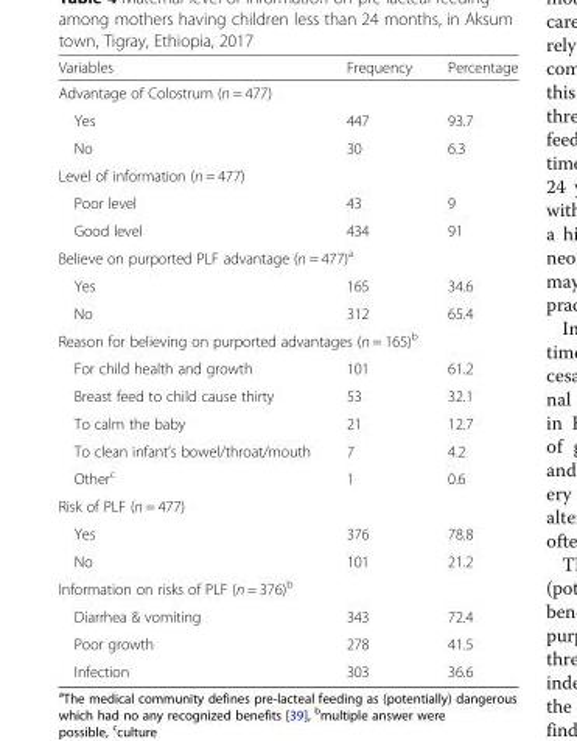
<table><thead><tr><td>Variables</td><td>Frequency</td><td>Percentage</td></tr></thead><tbody><tr><td colspan="3">Advantage of Colostrum (n = 477)</td></tr><tr><td>Yes</td><td>447</td><td>93.7</td></tr><tr><td>No</td><td>30</td><td>6.3</td></tr><tr><td colspan="3">Level of information (n = 477)</td></tr><tr><td>Poor level</td><td>43</td><td>9</td></tr><tr><td>Good level</td><td>434</td><td>91</td></tr><tr><td colspan="3">Believe on purported PLF advantage (n = 477)<sup>a</sup></td></tr><tr><td>Yes</td><td>165</td><td>34.6</td></tr><tr><td>No</td><td>312</td><td>65.4</td></tr><tr><td colspan="3">Reason for believing on purported advantages (n = 165)<sup>b</sup></td></tr><tr><td>For child health and growth</td><td>101</td><td>61.2</td></tr><tr><td>Breast feed to child cause thirty</td><td>53</td><td>32.1</td></tr><tr><td>To calm the baby</td><td>21</td><td>12.7</td></tr><tr><td>To clean infant’s bowel/throat/mouth</td><td>7</td><td>4.2</td></tr><tr><td>Other<sup>c</sup></td><td>1</td><td>0.6</td></tr><tr><td colspan="3">Risk of PLF (n = 477)</td></tr><tr><td>Yes</td><td>376</td><td>78.8</td></tr><tr><td>No</td><td>101</td><td>21.2</td></tr><tr><td colspan="3">Information on risks of PLF (n = 376)<sup>b</sup></td></tr><tr><td>Diarrhea &amp; vomiting</td><td>343</td><td>72.4</td></tr><tr><td>Poor growth</td><td>278</td><td>41.5</td></tr><tr><td>Infection</td><td>303</td><td>36.6</td></tr></tbody></table>